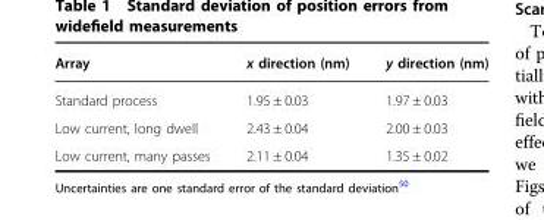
<table><thead><tr><td>Array</td><td>x direction (nm)</td><td>y direction (nm)</td></tr></thead><tbody><tr><td>Standard process</td><td>1.95 ± 0.03</td><td>1.97 ± 0.03</td></tr><tr><td>Low current, long dwell</td><td>2.43 ± 0.04</td><td>2.00 ± 0.03</td></tr><tr><td>Low current, many passes</td><td>2.11 ± 0.04</td><td>1.35 ± 0.02</td></tr></tbody></table>